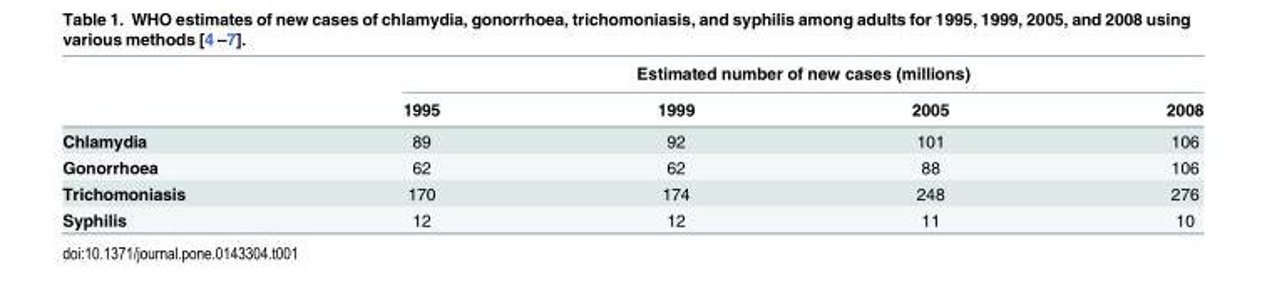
<table><thead><tr><td rowspan="2"></td><td colspan="4">Estimated number of new cases (millions)</td></tr><tr><td>1995</td><td>1999</td><td>2005</td><td>2008</td></tr></thead><tbody><tr><td>Chlamydia</td><td>89</td><td>92</td><td>101</td><td>106</td></tr><tr><td>Gonorrhoea</td><td>62</td><td>62</td><td>88</td><td>106</td></tr><tr><td>Trichomoniasis</td><td>170</td><td>174</td><td>248</td><td>276</td></tr><tr><td>Syphilis</td><td>12</td><td>12</td><td>11</td><td>10</td></tr></tbody></table>